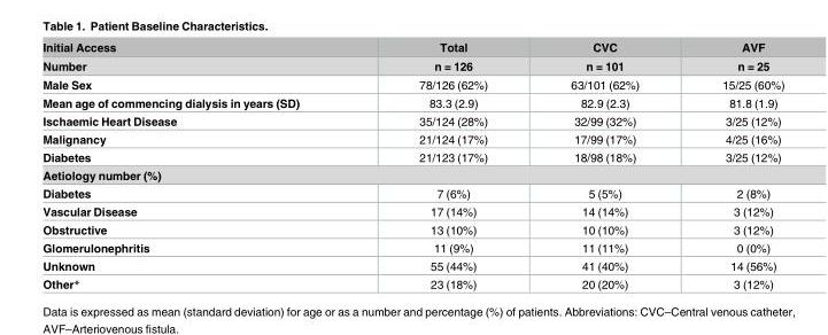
<table><thead><tr><td rowspan="2">Initial Access Number</td><td rowspan="2">Total n = 126</td><td rowspan="2">CVC n = 101</td><td rowspan="2">AVF n = 25</td></tr><tr></tr></thead><tbody><tr><td>Male Sex</td><td>78/126 (62%)</td><td>63/101 (62%)</td><td>15/25 (60%)</td></tr><tr><td>Mean age of commencing dialysis in years (SD)</td><td>83.3 (2.9)</td><td>82.9 (2.3)</td><td>81.8 (1.9)</td></tr><tr><td>Ischaemic Heart Disease</td><td>35/124 (28%)</td><td>32/99 (32%)</td><td>3/25 (12%)</td></tr><tr><td>Malignancy</td><td>21/124 (17%)</td><td>17/99 (17%)</td><td>4/25 (16%)</td></tr><tr><td>Diabetes</td><td>21/123 (17%)</td><td>18/98 (18%)</td><td>3/25 (12%)</td></tr><tr><td colspan="4">Aetiology number (%)</td></tr><tr><td>Diabetes</td><td>7 (6%)</td><td>5 (5%)</td><td>2 (8%)</td></tr><tr><td>Vascular Disease</td><td>17 (14%)</td><td>14 (14%)</td><td>3 (12%)</td></tr><tr><td>Obstructive</td><td>13 (10%)</td><td>10 (10%)</td><td>3 (12%)</td></tr><tr><td>Glomerulonephritis</td><td>11 (9%)</td><td>11 (11%)</td><td>0 (0%)</td></tr><tr><td>Unknown</td><td>55 (44%)</td><td>41 (40%)</td><td>14 (56%)</td></tr><tr><td>Other*</td><td>23 (18%)</td><td>20 (20%)</td><td>3 (12%)</td></tr></tbody></table>